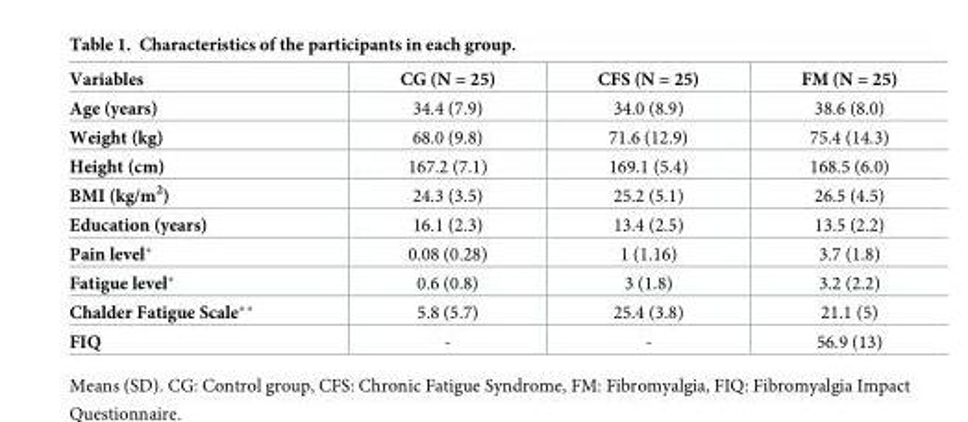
<table><thead><tr><td>Variables</td><td>CG (N = 25)</td><td>CFS (N = 25)</td><td>FM (N = 25)</td></tr></thead><tbody><tr><td>Age (years)</td><td>34.4 (7.9)</td><td>34.0 (8.9)</td><td>38.6 (8.0)</td></tr><tr><td>Weight (kg)</td><td>68.0 (9.8)</td><td>71.6 (12.9)</td><td>75.4 (14.3)</td></tr><tr><td>Height (cm)</td><td>167.2 (7.1)</td><td>169.1 (5.4)</td><td>168.5 (6.0)</td></tr><tr><td>BMI (kg/m<sup>2</sup>)</td><td>24.3 (3.5)</td><td>25.2 (5.1)</td><td>26.5 (4.5)</td></tr><tr><td>Education (years)</td><td>16.1 (2.3)</td><td>13.4 (2.5)</td><td>13.5 (2.2)</td></tr><tr><td>Pain level*</td><td>0.08 (0.28)</td><td>1 (1.16)</td><td>3.7 (1.8)</td></tr><tr><td>Fatigue level*</td><td>0.6 (0.8)</td><td>3 (1.8)</td><td>3.2 (2.2)</td></tr><tr><td>Chalder Fatigue Scale**</td><td>5.8 (5.7)</td><td>25.4 (3.8)</td><td>21.1 (5)</td></tr><tr><td>FIQ</td><td>-</td><td>-</td><td>56.9 (13)</td></tr></tbody></table>